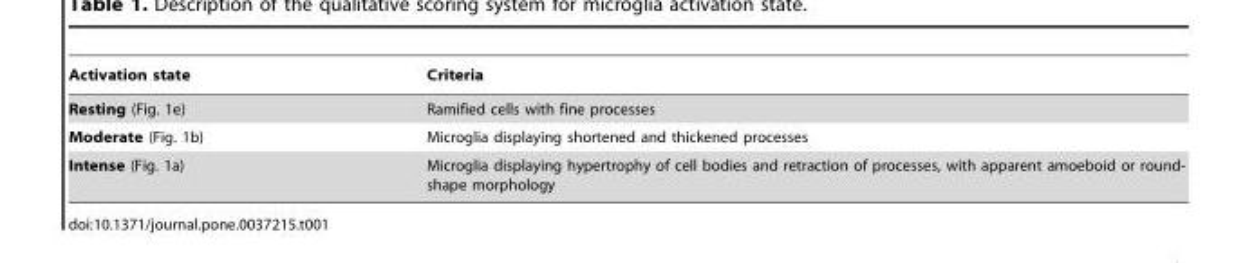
<table><thead><tr><td>Activation state</td><td>Criteria</td></tr></thead><tbody><tr><td>Resting (Fig. 1e)</td><td>Ramified cells with fine processes</td></tr><tr><td>Moderate (Fig. 1b)</td><td>Microglia displaying shortened and thickened processes</td></tr><tr><td>Intense (Fig. 1a)</td><td>Microglia displaying hypertrophy of cell bodies and retraction of processes, with apparent amoeboid or round- shape morphology</td></tr></tbody></table>